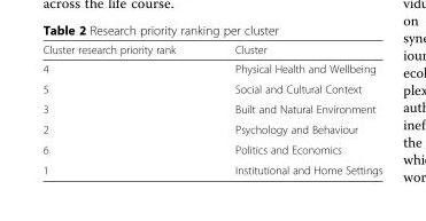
<table><thead><tr><td>Cluster research priority rank</td><td>Cluster</td></tr></thead><tbody><tr><td>4</td><td>Physical Health and Wellbeing</td></tr><tr><td>5</td><td>Social and Cultural Context</td></tr><tr><td>3</td><td>Built and Natural Environment</td></tr><tr><td>2</td><td>Psychology and Behaviour</td></tr><tr><td>6</td><td>Politics and Economics</td></tr><tr><td>1</td><td>Institutional and Home Settings</td></tr></tbody></table>